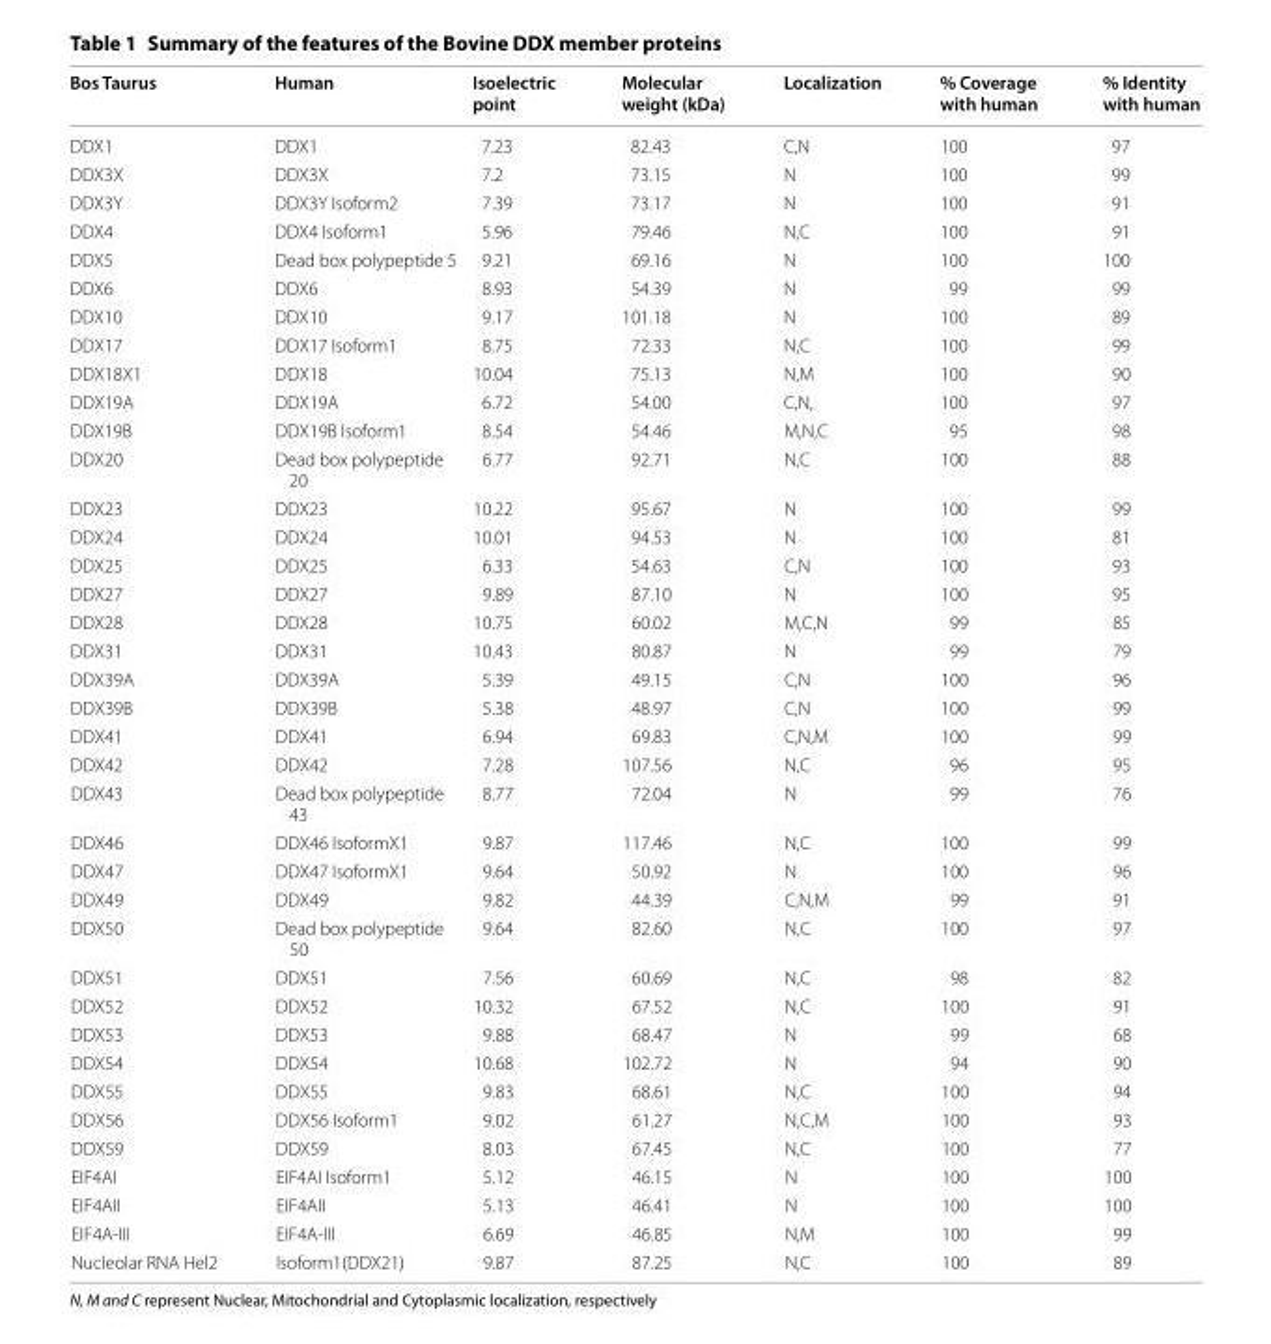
<table><thead><tr><td>Bos Taurus</td><td>Human</td><td>Isoelectric point</td><td>Molecular weight (kDa)</td><td>Localization</td><td>% Coverage with human</td><td>% Identity with human</td></tr></thead><tbody><tr><td>DDX1</td><td>DDX1</td><td>7.23</td><td>82.43</td><td>C,N</td><td>100</td><td>97</td></tr><tr><td>DDX3X</td><td>DDX3X</td><td>7.2</td><td>73.15</td><td>N</td><td>100</td><td>99</td></tr><tr><td>DDX3Y</td><td>DDX3Y Isoform2</td><td>7.39</td><td>73.17</td><td>N</td><td>100</td><td>91</td></tr><tr><td>DDX4</td><td>DDX4 Isoform1</td><td>5.96</td><td>79.46</td><td>N,C</td><td>100</td><td>91</td></tr><tr><td>DDX5</td><td>Dead box polypeptide 5</td><td>9.21</td><td>69.16</td><td>N</td><td>100</td><td>100</td></tr><tr><td>DDX6</td><td>DDX6</td><td>8.93</td><td>54.39</td><td>N</td><td>99</td><td>99</td></tr><tr><td>DDX10</td><td>DDX10</td><td>9.17</td><td>101.18</td><td>N</td><td>100</td><td>89</td></tr><tr><td>DDX17</td><td>DDX17 Isoform1</td><td>8.75</td><td>72.33</td><td>N,C</td><td>100</td><td>99</td></tr><tr><td>DDX18X1</td><td>DDX18</td><td>10.04</td><td>75.13</td><td>N,M</td><td>100</td><td>90</td></tr><tr><td>DDX19A</td><td>DDX19A</td><td>6.72</td><td>54.00</td><td>C,N,</td><td>100</td><td>97</td></tr><tr><td>DDX19B</td><td>DDX19B Isoform1</td><td>8.54</td><td>54.46</td><td>M,N,C</td><td>95</td><td>98</td></tr><tr><td>DDX20</td><td>Dead box polypeptide 20</td><td>6.77</td><td>92.71</td><td>N,C</td><td>100</td><td>88</td></tr><tr><td>DDX23</td><td>DDX23</td><td>10.22</td><td>95.67</td><td>N</td><td>100</td><td>99</td></tr><tr><td>DDX24</td><td>DDX24</td><td>10.01</td><td>94.53</td><td>N</td><td>100</td><td>81</td></tr><tr><td>DDX25</td><td>DDX25</td><td>6.33</td><td>54.63</td><td>C,N</td><td>100</td><td>93</td></tr><tr><td>DDX27</td><td>DDX27</td><td>9.89</td><td>87.10</td><td>N</td><td>100</td><td>95</td></tr><tr><td>DDX28</td><td>DDX28</td><td>10.75</td><td>60.02</td><td>M,C,N</td><td>99</td><td>85</td></tr><tr><td>DDX31</td><td>DDX31</td><td>10.43</td><td>80.87</td><td>N</td><td>99</td><td>79</td></tr><tr><td>DDX39A</td><td>DDX39A</td><td>5.39</td><td>49.15</td><td>C,N</td><td>100</td><td>96</td></tr><tr><td>DDX39B</td><td>DDX39B</td><td>5.38</td><td>48.97</td><td>C,N</td><td>100</td><td>99</td></tr><tr><td>DDX41</td><td>DDX41</td><td>6.94</td><td>69.83</td><td>C,N,M</td><td>100</td><td>99</td></tr><tr><td>DDX42</td><td>DDX42</td><td>7.28</td><td>107.56</td><td>N,C</td><td>96</td><td>95</td></tr><tr><td>DDX43</td><td>Dead box polypeptide 43</td><td>8.77</td><td>72.04</td><td>N</td><td>99</td><td>76</td></tr><tr><td>DDX46</td><td>DDX46 IsoformX1</td><td>9.87</td><td>117.46</td><td>N,C</td><td>100</td><td>99</td></tr><tr><td>DDX47</td><td>DDX47 IsoformX1</td><td>9.64</td><td>50.92</td><td>N</td><td>100</td><td>96</td></tr><tr><td>DDX49</td><td>DDX49</td><td>9.82</td><td>44.39</td><td>C,N,M</td><td>99</td><td>91</td></tr><tr><td>DDX50</td><td>Dead box polypeptide 50</td><td>9.64</td><td>82.60</td><td>N,C</td><td>100</td><td>97</td></tr><tr><td>DDX51</td><td>DDX51</td><td>7.56</td><td>60.69</td><td>N,C</td><td>98</td><td>82</td></tr><tr><td>DDX52</td><td>DDX52</td><td>10.32</td><td>67.52</td><td>N,C</td><td>100</td><td>91</td></tr><tr><td>DDX53</td><td>DDX53</td><td>9.88</td><td>68.47</td><td>N</td><td>99</td><td>68</td></tr><tr><td>DDX54</td><td>DDX54</td><td>10.68</td><td>102.72</td><td>N</td><td>94</td><td>90</td></tr><tr><td>DDX55</td><td>DDX55</td><td>9.83</td><td>68.61</td><td>N,C</td><td>100</td><td>94</td></tr><tr><td>DDX56</td><td>DDX56 Isoform1</td><td>9.02</td><td>61.27</td><td>N,C,M</td><td>100</td><td>93</td></tr><tr><td>DDX59</td><td>DDX59</td><td>8.03</td><td>67.45</td><td>N,C</td><td>100</td><td>77</td></tr><tr><td>EIF4AI</td><td>EIF4AI Isoform1</td><td>5.12</td><td>46.15</td><td>N</td><td>100</td><td>100</td></tr><tr><td>EIF4AII</td><td>EIF4AII</td><td>5.13</td><td>46.41</td><td>N</td><td>100</td><td>100</td></tr><tr><td>EIF4A-III</td><td>EIF4A-III</td><td>6.69</td><td>46.85</td><td>N,M</td><td>100</td><td>99</td></tr><tr><td>Nucleolar RNA Hel2</td><td>Isoform1(DDX21)</td><td>9.87</td><td>87.25</td><td>N,C</td><td>100</td><td>89</td></tr></tbody></table>